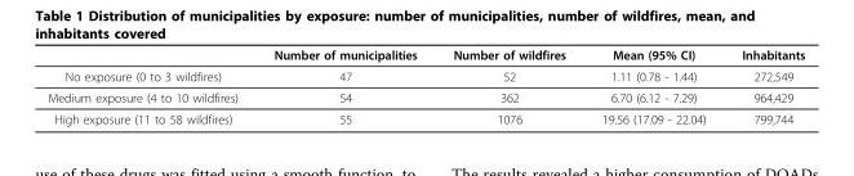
<table><thead><tr><td></td><td>Number of municipalities</td><td>Number of wildfires</td><td>Mean (95% CI)</td><td>Inhabitants</td></tr></thead><tbody><tr><td>No exposure (0 to 3 wildfires)</td><td>47</td><td>52</td><td>1.11 (0.78 - 1.44)</td><td>272,549</td></tr><tr><td>Medium exposure (4 to 10 wildfires)</td><td>54</td><td>362</td><td>6.70 (6.12 - 7.29)</td><td>964,429</td></tr><tr><td>High exposure (11 to 58 wildfires)</td><td>55</td><td>1076</td><td>19.56 (17.09 - 22.04)</td><td>799,744</td></tr></tbody></table>